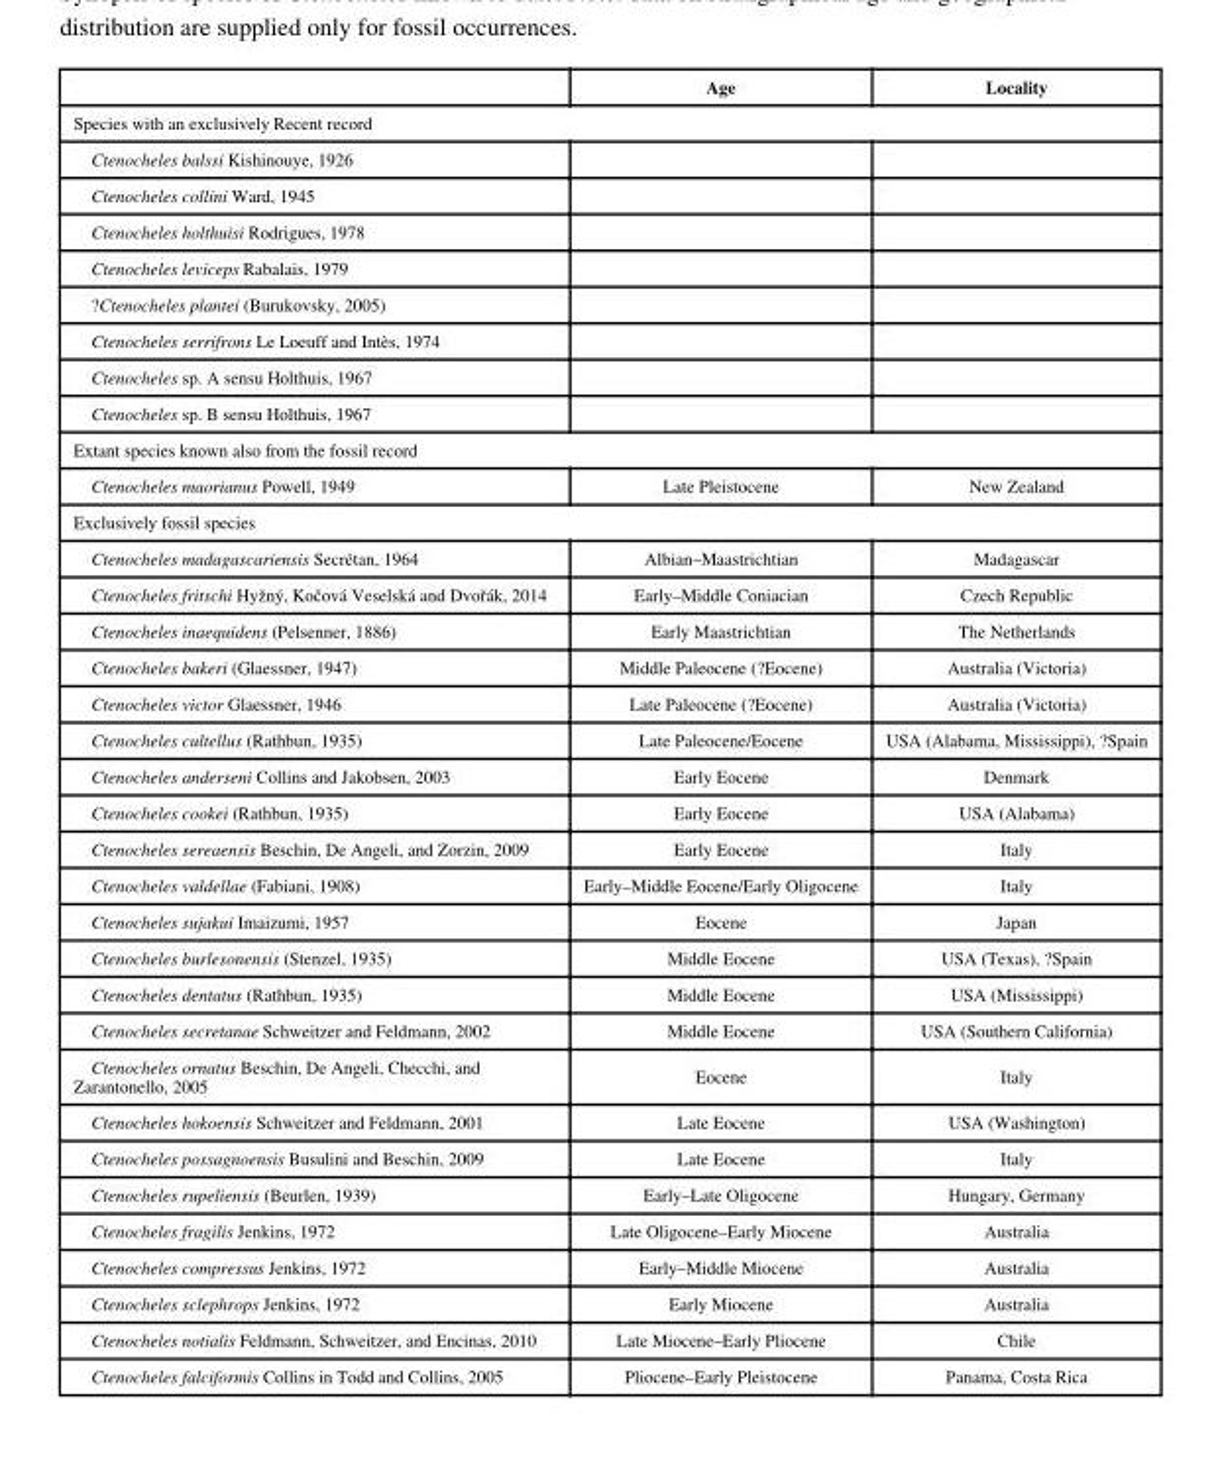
<table><thead><tr><td></td><td>Age</td><td>Locality</td></tr></thead><tbody><tr><td colspan="3">Species with an exclusively Recent record</td></tr><tr><td colspan="3">Ctenocheles balssi Kishinouye, 1926</td></tr><tr><td colspan="3">Ctenocheles collini Ward, 1945</td></tr><tr><td colspan="3">Ctenocheles holthuisi Rodrigues, 1978</td></tr><tr><td colspan="3">Ctenocheles leviceps Rabalais, 1979</td></tr><tr><td colspan="3">?Ctenocheles plantei (Burukovsky, 2005)</td></tr><tr><td colspan="3">Ctenocheles serrifrons Le Loeuff and Intès, 1974</td></tr><tr><td colspan="3">Ctenocheles sp. A sensu Holthuis, 1967</td></tr><tr><td colspan="3">Ctenocheles sp. B sensu Holthuis, 1967</td></tr><tr><td colspan="3">Extant species known also from the fossil record</td></tr><tr><td>Ctenocheles maorianus Powell, 1949</td><td>Late Pleistocene</td><td>New Zealand</td></tr><tr><td colspan="3">Exclusively fossil species</td></tr><tr><td>Ctenocheles madagascariensis Secrétan, 1964</td><td>Albian–Maastrichtian</td><td>Madagascar</td></tr><tr><td>Ctenocheles fritschi Hyžný, Kočová Veselská and Dvořák, 2014</td><td>Early–Middle Coniacian</td><td>Czech Republic</td></tr><tr><td>Ctenocheles inaequidens (Pelsenner, 1886)</td><td>Early Maastrichtian</td><td>The Netherlands</td></tr><tr><td>Ctenocheles bakeri (Glaessner, 1947)</td><td>Middle Paleocene (?Eocene)</td><td>Australia (Victoria)</td></tr><tr><td>Ctenocheles victor Glaessner, 1946</td><td>Late Paleocene (?Eocene)</td><td>Australia (Victoria)</td></tr><tr><td>Ctenocheles cultellus (Rathbun, 1935)</td><td>Late Paleocene/Eocene</td><td>USA (Alabama, Mississippi), ?Spain</td></tr><tr><td>Ctenocheles anderseni Collins and Jakobsen, 2003</td><td>Early Eocene</td><td>Denmark</td></tr><tr><td>Ctenocheles cookei (Rathbun, 1935)</td><td>Early Eocene</td><td>USA (Alabama)</td></tr><tr><td>Ctenocheles sereaensis Beschin, De Angeli, and Zorzin, 2009</td><td>Early Eocene</td><td>Italy</td></tr><tr><td>Ctenocheles valdellae (Fabiani, 1908)</td><td>Early–Middle Eocene/Early Oligocene</td><td>Italy</td></tr><tr><td>Ctenocheles sujakui Imaizumi, 1957</td><td>Eocene</td><td>Japan</td></tr><tr><td>Ctenocheles burlesonensis (Stenzel, 1935)</td><td>Middle Eocene</td><td>USA (Texas), ?Spain</td></tr><tr><td>Ctenocheles dentatus (Rathbun, 1935)</td><td>Middle Eocene</td><td>USA (Mississippi)</td></tr><tr><td>Ctenocheles secretanae Schweitzer and Feldmann, 2002</td><td>Middle Eocene</td><td>USA (Southern California)</td></tr><tr><td>Ctenocheles ornatus Beschin, De Angeli, Checchi, and Zarantonello, 2005</td><td>Eocene</td><td>Italy</td></tr><tr><td>Ctenocheles hokoensis Schweitzer and Feldmann, 2001</td><td>Late Eocene</td><td>USA (Washington)</td></tr><tr><td>Ctenocheles possagnoensis Busulini and Beschin, 2009</td><td>Late Eocene</td><td>Italy</td></tr><tr><td>Ctenocheles rupeliensis (Beurlen, 1939)</td><td>Early–Late Oligocene</td><td>Hungary, Germany</td></tr><tr><td>Ctenocheles fragilis Jenkins, 1972</td><td>Late Oligocene–Early Miocene</td><td>Australia</td></tr><tr><td>Ctenocheles compressus Jenkins, 1972</td><td>Early–Middle Miocene</td><td>Australia</td></tr><tr><td>Ctenocheles sclephrops Jenkins, 1972</td><td>Early Miocene</td><td>Australia</td></tr><tr><td>Ctenocheles notialis Feldmann, Schweitzer, and Encinas, 2010</td><td>Late Miocene–Early Pliocene</td><td>Chile</td></tr><tr><td>Ctenocheles falciformis Collins in Todd and Collins, 2005</td><td>Pliocene–Early Pleistocene</td><td>Panama, Costa Rica</td></tr></tbody></table>